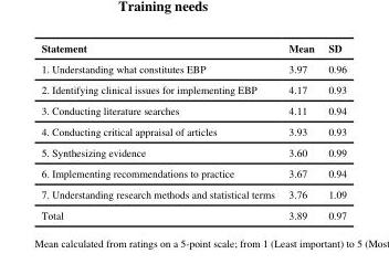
<table><thead><tr><td>Statement</td><td>Mean</td><td>SD</td></tr></thead><tbody><tr><td>1. Understanding what constitutes EBP</td><td>3.97</td><td>0.96</td></tr><tr><td>2. Identifying clinical issues for implementing EBP</td><td>4.17</td><td>0.93</td></tr><tr><td>3. Conducting literature searches</td><td>4.11</td><td>0.94</td></tr><tr><td>4. Conducting critical appraisal of articles</td><td>3.93</td><td>0.93</td></tr><tr><td>5. Synthesizing evidence</td><td>3.60</td><td>0.99</td></tr><tr><td>6. Implementing recommendations to practice</td><td>3.67</td><td>0.94</td></tr><tr><td>7. Understanding research methods and statistical terms</td><td>3.76</td><td>1.09</td></tr><tr><td>Total</td><td>3.89</td><td>0.97</td></tr></tbody></table>